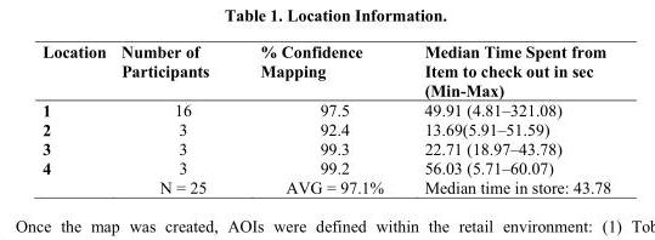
<table><thead><tr><td>Location</td><td>Number of Participants</td><td>% Confidence Mapping</td><td>Median Time Spent from Item to check out in sec (Min-Max)</td></tr></thead><tbody><tr><td>1</td><td>16</td><td>97.5</td><td>49.91 (4.81–321.08)</td></tr><tr><td>2</td><td>3</td><td>92.4</td><td>13.69(5.91–51.59)</td></tr><tr><td>3</td><td>3</td><td>99.3</td><td>22.71 (18.97–43.78)</td></tr><tr><td rowspan="2">4</td><td>3</td><td>99.2</td><td>56.03 (5.71–60.07)</td></tr><tr><td>N = 25</td><td>AVG = 97.1%</td><td>Median time in store: 43.78</td></tr></tbody></table>